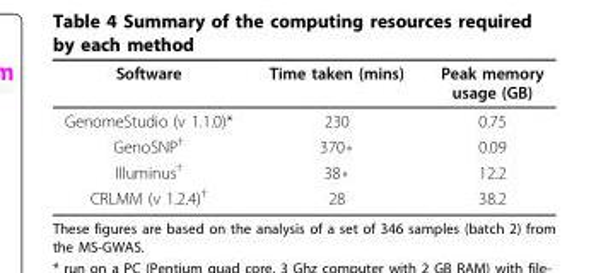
<table><thead><tr><td>Software</td><td>Time taken (mins)</td><td>Peak memory usage (GB)</td></tr></thead><tbody><tr><td>GenomeStudio (v 1.1.0)*</td><td>230</td><td>0.75</td></tr><tr><td>GenoSNP<sup>†</sup></td><td>370⋄</td><td>0.09</td></tr><tr><td>Illuminus<sup>†</sup></td><td>38⋄</td><td>12.2</td></tr><tr><td>CRLMM (v 1.2.4)<sup>†</sup></td><td>28</td><td>38.2</td></tr></tbody></table>